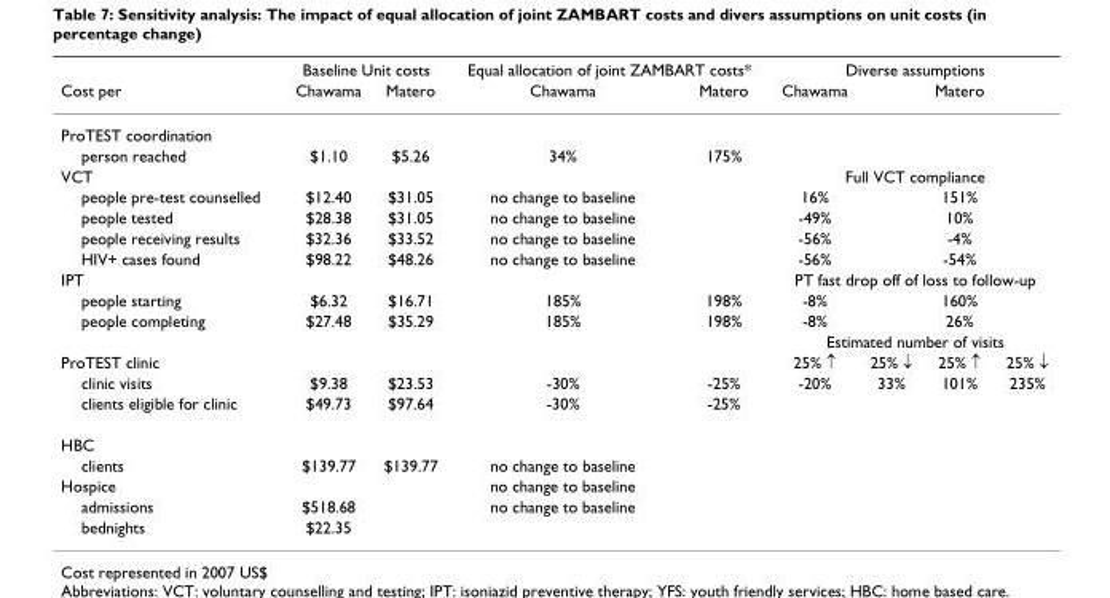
<table><thead><tr><td rowspan="2">Cost per</td><td colspan="2">Baseline Unit costs</td><td colspan="2">Equal allocation of joint ZAMBART costs*</td><td colspan="4">Diverse assumptions</td></tr><tr><td>Chawama</td><td>Matero</td><td>Chawama</td><td>Matero</td><td>Chawama</td><td></td><td>Matero</td><td></td></tr></thead><tbody><tr><td colspan="9">ProTEST coordination</td></tr><tr><td>person reached</td><td>$1.10</td><td>$5.26</td><td>34%</td><td>175%</td><td></td><td></td><td></td><td></td></tr><tr><td>VCT</td><td></td><td></td><td></td><td></td><td colspan="4">Full VCT compliance</td></tr><tr><td>people pre-test counselled</td><td>$12.40</td><td>$31.05</td><td>no change to baseline</td><td></td><td>16%</td><td></td><td>151%</td><td></td></tr><tr><td>people tested</td><td>$28.38</td><td>$31.05</td><td>no change to baseline</td><td></td><td>-49%</td><td></td><td>10%</td><td></td></tr><tr><td>people receiving results</td><td>$32.36</td><td>$33.52</td><td>no change to baseline</td><td></td><td>-56%</td><td></td><td>-4%</td><td></td></tr><tr><td>HIV+ cases found</td><td>$98.22</td><td>$48.26</td><td>no change to baseline</td><td></td><td>-56%</td><td></td><td>-54%</td><td></td></tr><tr><td>IPT</td><td></td><td></td><td></td><td></td><td colspan="4">PT fast drop off of loss to follow-up</td></tr><tr><td>people starting</td><td>$6.32</td><td>$16.71</td><td>185%</td><td>198%</td><td>-8%</td><td></td><td>160%</td><td></td></tr><tr><td rowspan="2">people completing</td><td>$27.48</td><td>$35.29</td><td>185%</td><td>198%</td><td>-8%</td><td></td><td>26%</td><td></td></tr><tr><td></td><td></td><td></td><td></td><td colspan="4">Estimated number of visits</td></tr><tr><td>ProTEST clinic</td><td></td><td></td><td></td><td></td><td>25% ↑</td><td>25% ↓</td><td>25% ↑</td><td>25% ↓</td></tr><tr><td>clinic visits</td><td>$9.38</td><td>$23.53</td><td>-30%</td><td>-25%</td><td>-20%</td><td>33%</td><td>101%</td><td>235%</td></tr><tr><td>clients eligible for clinic</td><td>$49.73</td><td>$97.64</td><td>-30%</td><td>-25%</td><td></td><td></td><td></td><td></td></tr><tr><td colspan="9">HBC</td></tr><tr><td>clients</td><td>$139.77</td><td>$139.77</td><td>no change to baseline</td><td></td><td></td><td></td><td></td><td></td></tr><tr><td>Hospice</td><td></td><td></td><td>no change to baseline</td><td></td><td></td><td></td><td></td><td></td></tr><tr><td>admissions</td><td>$518.68</td><td></td><td>no change to baseline</td><td></td><td></td><td></td><td></td><td></td></tr><tr><td>bednights</td><td>$22.35</td><td></td><td></td><td></td><td></td><td></td><td></td><td></td></tr></tbody></table>